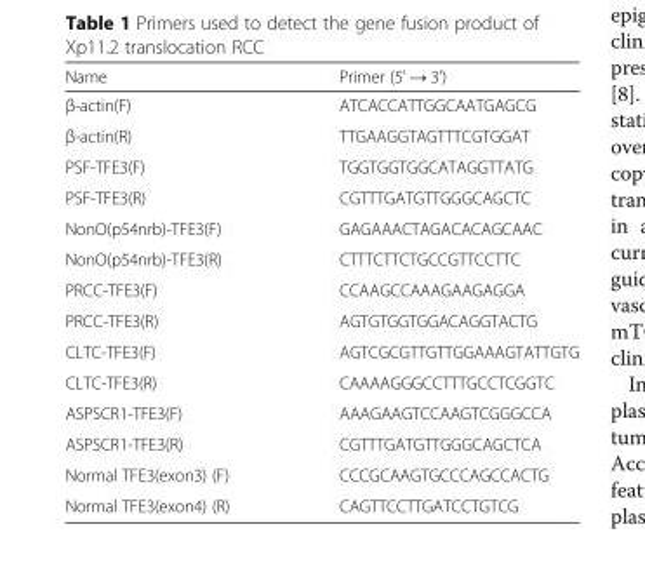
<table><thead><tr><td>Name</td><td>Primer (5&#x27; → 3&#x27;)</td></tr></thead><tbody><tr><td>β-actin(F)</td><td>ATCACCATTGGCAATGAGCG</td></tr><tr><td>β-actin(R)</td><td>TTGAAGGTAGTTTCGTGGAT</td></tr><tr><td>PSF-TFE3(F)</td><td>TGGTGGTGGCATAGGTTATG</td></tr><tr><td>PSF-TFE3(R)</td><td>CGTTTGATGTTGGGCAGCTC</td></tr><tr><td>NonO(p54nrb)-TFE3(F)</td><td>GAGAAACTAGACACAGCAAC</td></tr><tr><td>NonO(p54nrb)-TFE3(R)</td><td>CTTTCTTCTGCCGTTCCTTC</td></tr><tr><td>PRCC-TFE3(F)</td><td>CCAAGCCAAAGAAGAGGA</td></tr><tr><td>PRCC-TFE3(R)</td><td>AGTGTGGTGGACAGGTACTG</td></tr><tr><td>CLTC-TFE3(F)</td><td>AGTCGCGTTGTTGGAAAGTATTGTG</td></tr><tr><td>CLTC-TFE3(R)</td><td>CAAAAGGGCCTTTGCCTCGGTC</td></tr><tr><td>ASPSCR1-TFE3(F)</td><td>AAAGAAGTCCAAGTCGGGCCA</td></tr><tr><td>ASPSCR1-TFE3(R)</td><td>CGTTTGATGTTGGGCAGCTCA</td></tr><tr><td>Normal TFE3(exon3) (F)</td><td>CCCGCAAGTGCCCAGCCACTG</td></tr><tr><td>Normal TFE3(exon4) (R)</td><td>CAGTTCCTTGATCCTGTCG</td></tr></tbody></table>